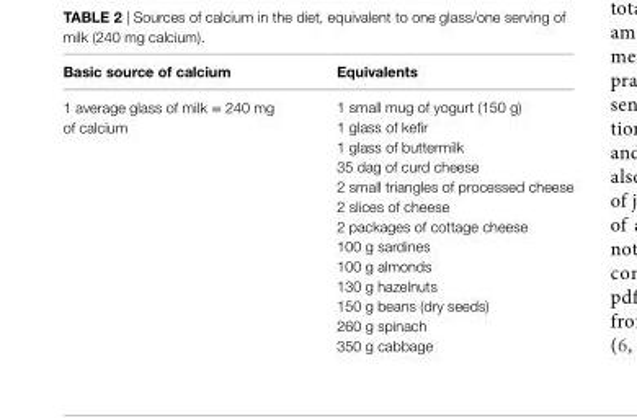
<table><thead><tr><td>basic source of calcium</td><td>equivalents</td></tr></thead><tbody><tr><td rowspan="13">1 average glass of milk = 240 mg of calcium</td><td>1 small mug of yogurt (150 g)</td></tr><tr><td>1 glass of kefir</td></tr><tr><td>1 glass of buttermilk</td></tr><tr><td>35 dag of curd cheese</td></tr><tr><td>2 small triangles of processed cheese</td></tr><tr><td>2 slices of cheese</td></tr><tr><td>2 packages of cottage cheese</td></tr><tr><td>100 g sardines</td></tr><tr><td>100 g almonds</td></tr><tr><td>130 g hazelnuts</td></tr><tr><td>150 g beans (dry seeds)</td></tr><tr><td>260 g spinach</td></tr><tr><td>350 g cabbage</td></tr></tbody></table>